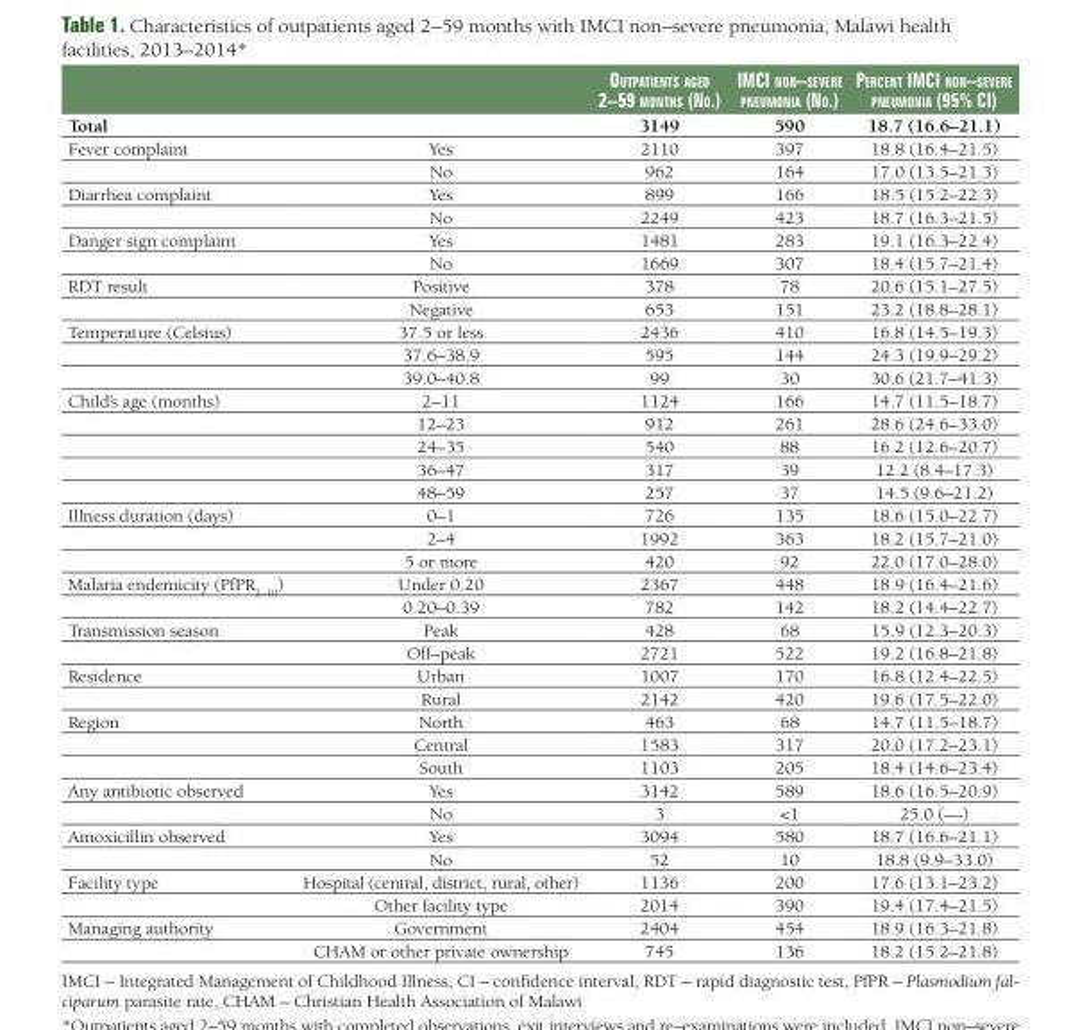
<table><thead><tr><td></td><td></td><td>Outpatients aged 2–59 mOnths (nO.)</td><td>imCi nOn–severe pneumOnia (nO.)</td><td>perCent imCi nOn–severe pneumOnia (95% Ci)</td></tr></thead><tbody><tr><td>Total</td><td></td><td>3149</td><td>590</td><td>18.7 (16.6–21.1)</td></tr><tr><td rowspan="2">Fever complaint</td><td>Yes</td><td>2110</td><td>397</td><td>18.8 (16.4–21.5)</td></tr><tr><td>No</td><td>962</td><td>164</td><td>17.0 (13.5–21.3)</td></tr><tr><td rowspan="2">Diarrhea complaint</td><td>Yes</td><td>899</td><td>166</td><td>18.5 (15.2–22.3)</td></tr><tr><td>No</td><td>2249</td><td>423</td><td>18.7 (16.3–21.5)</td></tr><tr><td rowspan="2">Danger sign complaint</td><td>Yes</td><td>1481</td><td>283</td><td>19.1 (16.3–22.4)</td></tr><tr><td>No</td><td>1669</td><td>307</td><td>18.4 (15.7–21.4)</td></tr><tr><td rowspan="2">RDT result</td><td>Positive</td><td>378</td><td>78</td><td>20.6 (15.1–27.5)</td></tr><tr><td>Negative</td><td>653</td><td>151</td><td>23.2 (18.8–28.1)</td></tr><tr><td rowspan="3">Temperature (Celsius)</td><td>37.5 or less</td><td>2436</td><td>410</td><td>16.8 (14.5–19.3)</td></tr><tr><td>37.6–38.9</td><td>595</td><td>144</td><td>24.3 (19.9–29.2)</td></tr><tr><td>39.0–40.8</td><td>99</td><td>30</td><td>30.6 (21.7–41.3)</td></tr><tr><td rowspan="5">Child’s age (months)</td><td>2–11</td><td>1124</td><td>166</td><td>14.7 (11.5–18.7)</td></tr><tr><td>12–23</td><td>912</td><td>261</td><td>28.6 (24.6–33.0)</td></tr><tr><td>24–35</td><td>540</td><td>88</td><td>16.2 (12.6–20.7)</td></tr><tr><td>36–47</td><td>317</td><td>39</td><td>12.2 (8.4–17.3)</td></tr><tr><td>48–59</td><td>257</td><td>37</td><td>14.5 (9.6–21.2)</td></tr><tr><td rowspan="3">Illness duration (days)</td><td>0–1</td><td>726</td><td>135</td><td>18.6 (15.0–22.7)</td></tr><tr><td>2–4</td><td>1992</td><td>363</td><td>18.2 (15.7–21.0)</td></tr><tr><td>5 or more</td><td>420</td><td>92</td><td>22.0 (17.0–28.0)</td></tr><tr><td rowspan="2">Malaria endemicity (PfPR<sub>2–10</sub>)</td><td>Under 0.20</td><td>2367</td><td>448</td><td>18.9 (16.4–21.6)</td></tr><tr><td>0.20–0.39</td><td>782</td><td>142</td><td>18.2 (14.4–22.7)</td></tr><tr><td rowspan="2">Transmission season</td><td>Peak</td><td>428</td><td>68</td><td>15.9 (12.3–20.3)</td></tr><tr><td>Off–peak</td><td>2721</td><td>522</td><td>19.2 (16.8–21.8)</td></tr><tr><td rowspan="2">Residence</td><td>Urban</td><td>1007</td><td>170</td><td>16.8 (12.4–22.5)</td></tr><tr><td>Rural</td><td>2142</td><td>420</td><td>19.6 (17.5–22.0)</td></tr><tr><td rowspan="3">Region</td><td>North</td><td>463</td><td>68</td><td>14.7 (11.5–18.7)</td></tr><tr><td>Central</td><td>1583</td><td>317</td><td>20.0 (17.2–23.1)</td></tr><tr><td>South</td><td>1103</td><td>205</td><td>18.4 (14.6–23.4)</td></tr><tr><td rowspan="2">Any antibiotic observed</td><td>Yes</td><td>3142</td><td>589</td><td>18.6 (16.5–20.9)</td></tr><tr><td>No</td><td>3</td><td>&lt;1</td><td>25.0 (––)</td></tr><tr><td rowspan="2">Amoxicillin observed</td><td>Yes</td><td>3094</td><td>580</td><td>18.7 (16.6–21.1)</td></tr><tr><td>No</td><td>52</td><td>10</td><td>18.8 (9.9–33.0)</td></tr><tr><td rowspan="2">Facility type</td><td>Hospital (central, district, rural, other)</td><td>1136</td><td>200</td><td>17.6 (13.1–23.2)</td></tr><tr><td>Other facility type</td><td>2014</td><td>390</td><td>19.4 (17.4–21.5)</td></tr><tr><td rowspan="2">Managing authority</td><td>Government</td><td>2404</td><td>454</td><td>18.9 (16.3–21.8)</td></tr><tr><td>CHAM or other private ownership</td><td>745</td><td>136</td><td>18.2 (15.2–21.8)</td></tr></tbody></table>